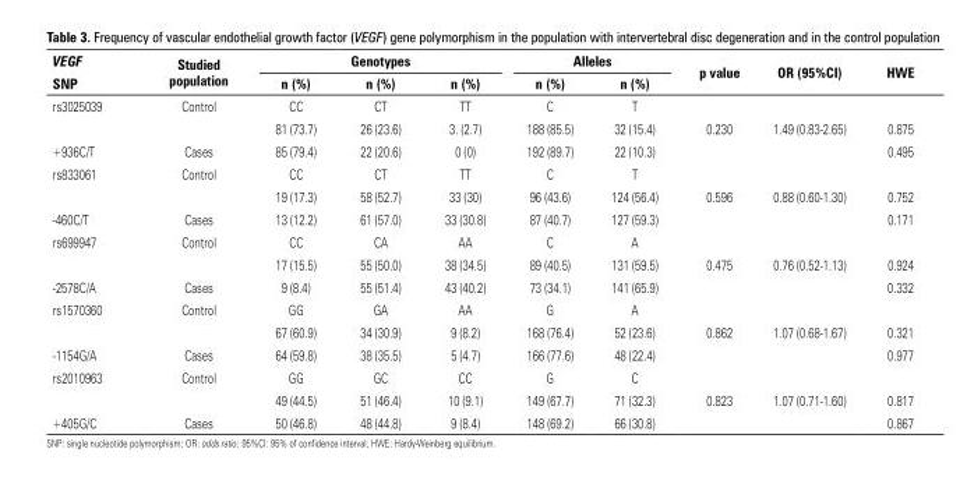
<table><thead><tr><td rowspan="2">VEGF SNP</td><td rowspan="2">Studied population</td><td colspan="3">Genotypes</td><td colspan="2">Alleles</td><td rowspan="2">p value</td><td rowspan="2">OR (95%CI)</td><td rowspan="2">HWE</td></tr><tr><td>n (%)</td><td>n (%)</td><td>n (%)</td><td>n (%)</td><td>n (%)</td></tr></thead><tbody><tr><td rowspan="2">rs3025039</td><td>Control</td><td>CC</td><td>CT</td><td>TT</td><td>C</td><td>T</td><td></td><td></td><td></td></tr><tr><td></td><td>81 (73.7)</td><td>26 (23.6)</td><td>3. (2.7)</td><td>188 (85.5)</td><td>32 (15.4)</td><td>0.230</td><td>1.49 (0.83-2.65)</td><td>0.875</td></tr><tr><td>+936C/T</td><td>Cases</td><td>85 (79.4)</td><td>22 (20.6)</td><td>0 (0)</td><td>192 (89.7)</td><td>22 (10.3)</td><td></td><td></td><td>0.495</td></tr><tr><td rowspan="2">rs833061</td><td>Control</td><td>CC</td><td>CT</td><td>TT</td><td>C</td><td>T</td><td></td><td></td><td></td></tr><tr><td></td><td>19 (17.3)</td><td>58 (52.7)</td><td>33 (30)</td><td>96 (43.6)</td><td>124 (56.4)</td><td>0.596</td><td>0.88 (0.60-1.30)</td><td>0.752</td></tr><tr><td>-460C/T</td><td>Cases</td><td>13 (12.2)</td><td>61 (57.0)</td><td>33 (30.8)</td><td>87 (40.7)</td><td>127 (59.3)</td><td></td><td></td><td>0.171</td></tr><tr><td rowspan="2">rs699947</td><td>Control</td><td>CC</td><td>CA</td><td>AA</td><td>C</td><td>A</td><td></td><td></td><td></td></tr><tr><td></td><td>17 (15.5)</td><td>55 (50.0)</td><td>38 (34.5)</td><td>89 (40.5)</td><td>131 (59.5)</td><td>0.475</td><td>0.76 (0.52-1.13)</td><td>0.924</td></tr><tr><td>-2578C/A</td><td>Cases</td><td>9 (8.4)</td><td>55 (51.4)</td><td>43 (40.2)</td><td>73 (34.1)</td><td>141 (65.9)</td><td></td><td></td><td>0.332</td></tr><tr><td rowspan="2">rs1570360</td><td>Control</td><td>GG</td><td>GA</td><td>AA</td><td>G</td><td>A</td><td></td><td></td><td></td></tr><tr><td></td><td>67 (60.9)</td><td>34 (30.9)</td><td>9 (8.2)</td><td>168 (76.4)</td><td>52 (23.6)</td><td>0.862</td><td>1.07 (0.68-1.67)</td><td>0.321</td></tr><tr><td>-1154G/A</td><td>Cases</td><td>64 (59.8)</td><td>38 (35.5)</td><td>5 (4.7)</td><td>166 (77.6)</td><td>48 (22.4)</td><td></td><td></td><td>0.977</td></tr><tr><td rowspan="2">rs2010963</td><td>Control</td><td>GG</td><td>GC</td><td>CC</td><td>G</td><td>C</td><td></td><td></td><td></td></tr><tr><td></td><td>49 (44.5)</td><td>51 (46.4)</td><td>10 (9.1)</td><td>149 (67.7)</td><td>71 (32.3)</td><td>0.823</td><td>1.07 (0.71-1.60)</td><td>0.817</td></tr><tr><td>+405G/C</td><td>Cases</td><td>50 (46.8)</td><td>48 (44.8)</td><td>9 (8.4)</td><td>148 (69.2)</td><td>66 (30.8)</td><td></td><td></td><td>0.867</td></tr></tbody></table>